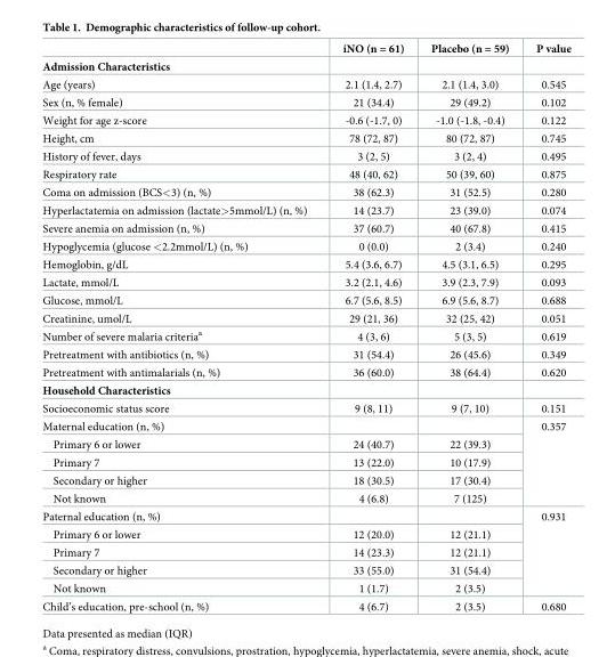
<table><thead><tr><td></td><td>iNO (n = 61)</td><td>Placebo (n = 59)</td><td>P value</td></tr></thead><tbody><tr><td colspan="4">Admission Characteristics</td></tr><tr><td>Age (years)</td><td>2.1 (1.4, 2.7)</td><td>2.1 (1.4, 3.0)</td><td>0.545</td></tr><tr><td>Sex (n, % female)</td><td>21 (34.4)</td><td>29 (49.2)</td><td>0.102</td></tr><tr><td>Weight for age z-score</td><td>-0.6 (-1.7, 0)</td><td>-1.0 (-1.8, -0.4)</td><td>0.122</td></tr><tr><td>Height, cm</td><td>78 (72, 87)</td><td>80 (72, 87)</td><td>0.745</td></tr><tr><td>History of fever, days</td><td>3 (2, 5)</td><td>3 (2, 4)</td><td>0.495</td></tr><tr><td>Respiratory rate</td><td>48 (40, 62)</td><td>50 (39, 60)</td><td>0.875</td></tr><tr><td>Coma on admission (BCS&lt;3) (n, %)</td><td>38 (62.3)</td><td>31 (52.5)</td><td>0.280</td></tr><tr><td>Hyperlactatemia on admission (lactate&gt;5mmol/L) (n, %)</td><td>14 (23.7)</td><td>23 (39.0)</td><td>0.074</td></tr><tr><td>Severe anemia on admission (n, %)</td><td>37 (60.7)</td><td>40 (67.8)</td><td>0.415</td></tr><tr><td>Hypoglycemia (glucose &lt;2.2mmol/L) (n, %)</td><td>0 (0.0)</td><td>2 (3.4)</td><td>0.240</td></tr><tr><td>Hemoglobin, g/dL</td><td>5.4 (3.6, 6.7)</td><td>4.5 (3.1, 6.5)</td><td>0.295</td></tr><tr><td>Lactate, mmol/L</td><td>3.2 (2.1, 4.6)</td><td>3.9 (2.3, 7.9)</td><td>0.093</td></tr><tr><td>Glucose, mmol/L</td><td>6.7 (5.6, 8.5)</td><td>6.9 (5.6, 8.7)</td><td>0.688</td></tr><tr><td>Creatinine, umol/L</td><td>29 (21, 36)</td><td>32 (25, 42)</td><td>0.051</td></tr><tr><td>Number of severe malaria criteria<sup>a</sup></td><td>4 (3, 6)</td><td>5 (3, 5)</td><td>0.619</td></tr><tr><td>Pretreatment with antibiotics (n, %)</td><td>31 (54.4)</td><td>26 (45.6)</td><td>0.349</td></tr><tr><td>Pretreatment with antimalarials (n, %)</td><td>36 (60.0)</td><td>38 (64.4)</td><td>0.620</td></tr><tr><td colspan="4">Household Characteristics</td></tr><tr><td>Socioeconomic status score</td><td>9 (8, 11)</td><td>9 (7, 10)</td><td>0.151</td></tr><tr><td colspan="3">Maternal education (n, %)</td><td rowspan="5">0.357</td></tr><tr><td>Primary 6 or lower</td><td>24 (40.7)</td><td>22 (39.3)</td></tr><tr><td>Primary 7</td><td>13 (22.0)</td><td>10 (17.9)</td></tr><tr><td>Secondary or higher</td><td>18 (30.5)</td><td>17 (30.4)</td></tr><tr><td>Not known</td><td>4 (6.8)</td><td>7 (125)</td></tr><tr><td colspan="3">Paternal education (n, %)</td><td rowspan="5">0.931</td></tr><tr><td>Primary 6 or lower</td><td>12 (20.0)</td><td>12 (21.1)</td></tr><tr><td>Primary 7</td><td>14 (23.3)</td><td>12 (21.1)</td></tr><tr><td>Secondary or higher</td><td>33 (55.0)</td><td>31 (54.4)</td></tr><tr><td>Not known</td><td>1 (1.7)</td><td>2 (3.5)</td></tr><tr><td>Child’s education, pre-school (n, %)</td><td>4 (6.7)</td><td>2 (3.5)</td><td>0.680</td></tr></tbody></table>